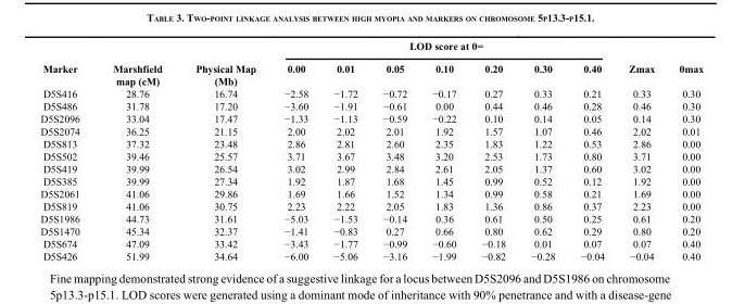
<table><thead><tr><td rowspan="2">Marker</td><td rowspan="2">Marshfield map (cM)</td><td rowspan="2">Physical Map (Mb)</td><td colspan="7">LOD score at θ=</td><td rowspan="2">Zmax</td><td rowspan="2">θmax</td></tr><tr><td>0.00</td><td>0.01</td><td>0.05</td><td>0.10</td><td>0.20</td><td>0.30</td><td>0.40</td></tr></thead><tbody><tr><td>D5S416</td><td>28.76</td><td>16.74</td><td>−2.58</td><td>−1.72</td><td>−0.72</td><td>−0.17</td><td>0.27</td><td>0.33</td><td>0.21</td><td>0.33</td><td>0.30</td></tr><tr><td>D5S486</td><td>31.78</td><td>17.20</td><td>−3.60</td><td>−1.91</td><td>−0.61</td><td>0.00</td><td>0.44</td><td>0.46</td><td>0.28</td><td>0.46</td><td>0.30</td></tr><tr><td>D5S2096</td><td>33.04</td><td>17.47</td><td>−1.33</td><td>−1.13</td><td>−0.59</td><td>−0.22</td><td>0.10</td><td>0.14</td><td>0.05</td><td>0.14</td><td>0.30</td></tr><tr><td>D5S2074</td><td>36.25</td><td>21.15</td><td>2.00</td><td>2.02</td><td>2.01</td><td>1.92</td><td>1.57</td><td>1.07</td><td>0.46</td><td>2.02</td><td>0.01</td></tr><tr><td>D5S813</td><td>37.32</td><td>23.48</td><td>2.86</td><td>2.81</td><td>2.60</td><td>2.35</td><td>1.83</td><td>1.22</td><td>0.53</td><td>2.86</td><td>0.00</td></tr><tr><td>D5S502</td><td>39.46</td><td>25.57</td><td>3.71</td><td>3.67</td><td>3.48</td><td>3.20</td><td>2.53</td><td>1.73</td><td>0.80</td><td>3.71</td><td>0.00</td></tr><tr><td>D5S419</td><td>39.99</td><td>26.54</td><td>3.02</td><td>2.99</td><td>2.84</td><td>2.61</td><td>2.05</td><td>1.37</td><td>0.60</td><td>3.02</td><td>0.00</td></tr><tr><td>D5S385</td><td>39.99</td><td>27.34</td><td>1.92</td><td>1.87</td><td>1.68</td><td>1.45</td><td>0.99</td><td>0.52</td><td>0.12</td><td>1.92</td><td>0.00</td></tr><tr><td>D5S2061</td><td>41.06</td><td>29.86</td><td>1.69</td><td>1.66</td><td>1.52</td><td>1.34</td><td>0.99</td><td>0.58</td><td>0.21</td><td>1.69</td><td>0.00</td></tr><tr><td>D5S819</td><td>41.06</td><td>30.75</td><td>2.23</td><td>2.22</td><td>2.05</td><td>1.83</td><td>1.36</td><td>0.86</td><td>0.37</td><td>2.23</td><td>0.00</td></tr><tr><td>D5S1986</td><td>44.73</td><td>31.61</td><td>−5.03</td><td>−1.53</td><td>−0.14</td><td>0.36</td><td>0.61</td><td>0.50</td><td>0.25</td><td>0.61</td><td>0.20</td></tr><tr><td>D5S1470</td><td>45.34</td><td>32.37</td><td>−1.41</td><td>−0.83</td><td>0.27</td><td>0.66</td><td>0.80</td><td>0.62</td><td>0.29</td><td>0.80</td><td>0.20</td></tr><tr><td>D5S674</td><td>47.09</td><td>33.42</td><td>−3.43</td><td>−1.77</td><td>−0.99</td><td>−0.60</td><td>−0.18</td><td>0.01</td><td>0.07</td><td>0.07</td><td>0.40</td></tr><tr><td>D5S426</td><td>51.99</td><td>34.64</td><td>−6.00</td><td>−5.06</td><td>−3.16</td><td>−1.99</td><td>−0.82</td><td>−0.28</td><td>−0.04</td><td>−0.04</td><td>0.40</td></tr></tbody></table>